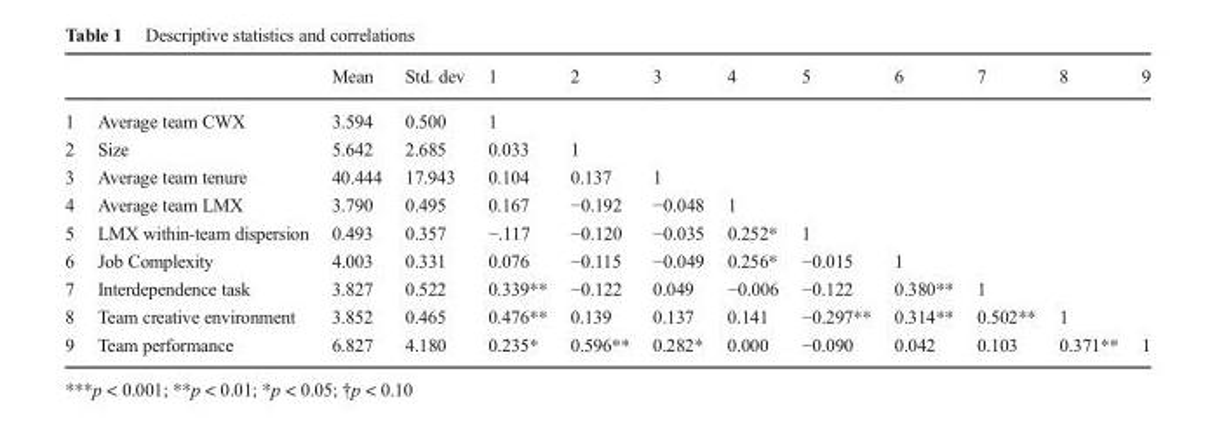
<table><thead><tr><td></td><td></td><td>Mean</td><td>Std. dev</td><td>1</td><td>2</td><td>3</td><td>4</td><td>5</td><td>6</td><td>7</td><td>8</td><td>9</td></tr></thead><tbody><tr><td>1</td><td>Average team CWX</td><td>3.594</td><td>0.500</td><td>1</td><td></td><td></td><td></td><td></td><td></td><td></td><td></td><td></td></tr><tr><td>2</td><td>Size</td><td>5.642</td><td>2.685</td><td>0.033</td><td>1</td><td></td><td></td><td></td><td></td><td></td><td></td><td></td></tr><tr><td>3</td><td>Average team tenure</td><td>40.444</td><td>17.943</td><td>0.104</td><td>0.137</td><td>1</td><td></td><td></td><td></td><td></td><td></td><td></td></tr><tr><td>4</td><td>Average team LMX</td><td>3.790</td><td>0.495</td><td>0.167</td><td>−0.192</td><td>−0.048</td><td>1</td><td></td><td></td><td></td><td></td><td></td></tr><tr><td>5</td><td>LMX within-team dispersion</td><td>0.493</td><td>0.357</td><td>−.117</td><td>−0.120</td><td>−0.035</td><td>0.252*</td><td>1</td><td></td><td></td><td></td><td></td></tr><tr><td>6</td><td>Job Complexity</td><td>4.003</td><td>0.331</td><td>0.076</td><td>−0.115</td><td>−0.049</td><td>0.256*</td><td>−0.015</td><td>1</td><td></td><td></td><td></td></tr><tr><td>7</td><td>Interdependence task</td><td>3.827</td><td>0.522</td><td>0.339**</td><td>−0.122</td><td>0.049</td><td>−0.006</td><td>−0.122</td><td>0.380**</td><td>1</td><td></td><td></td></tr><tr><td>8</td><td>Team creative environment</td><td>3.852</td><td>0.465</td><td>0.476**</td><td>0.139</td><td>0.137</td><td>0.141</td><td>−0.297**</td><td>0.314**</td><td>0.502**</td><td>1</td><td></td></tr><tr><td>9</td><td>Team performance</td><td>6.827</td><td>4.180</td><td>0.235*</td><td>0.596**</td><td>0.282*</td><td>0.000</td><td>−0.090</td><td>0.042</td><td>0.103</td><td>0.371**</td><td>1</td></tr></tbody></table>